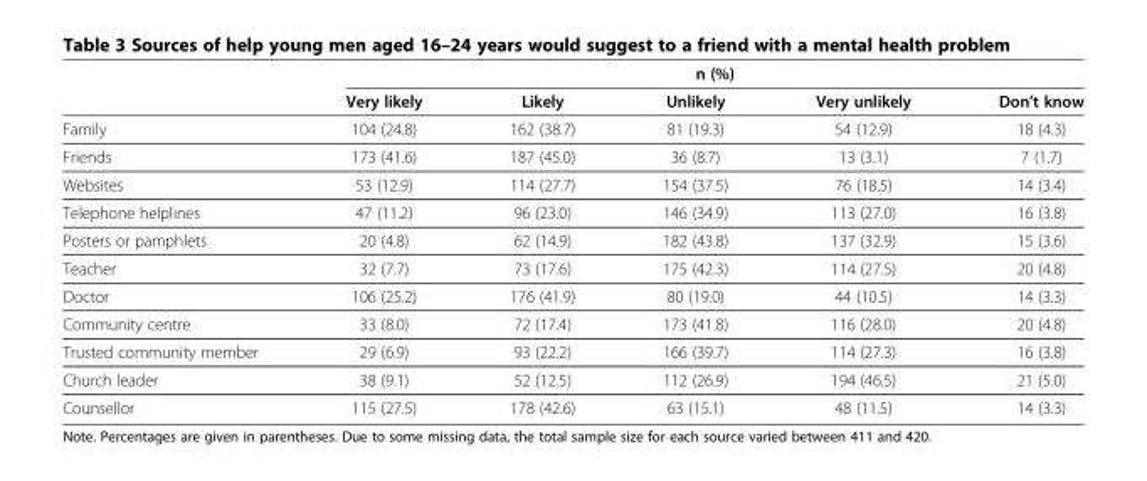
<table><thead><tr><td rowspan="2"></td><td colspan="5">n (%)</td></tr><tr><td>Very likely</td><td>Likely</td><td>Unlikely</td><td>Very unlikely</td><td>Don’t know</td></tr></thead><tbody><tr><td>Family</td><td>104 (24.8)</td><td>162 (38.7)</td><td>81 (19.3)</td><td>54 (12.9)</td><td>18 (4.3)</td></tr><tr><td>Friends</td><td>173 (41.6)</td><td>187 (45.0)</td><td>36 (8.7)</td><td>13 (3.1)</td><td>7 (1.7)</td></tr><tr><td>Websites</td><td>53 (12.9)</td><td>114 (27.7)</td><td>154 (37.5)</td><td>76 (18.5)</td><td>14 (3.4)</td></tr><tr><td>Telephone helplines</td><td>47 (11.2)</td><td>96 (23.0)</td><td>146 (34.9)</td><td>113 (27.0)</td><td>16 (3.8)</td></tr><tr><td>Posters or pamphlets</td><td>20 (4.8)</td><td>62 (14.9)</td><td>182 (43.8)</td><td>137 (32.9)</td><td>15 (3.6)</td></tr><tr><td>Teacher</td><td>32 (7.7)</td><td>73 (17.6)</td><td>175 (42.3)</td><td>114 (27.5)</td><td>20 (4.8)</td></tr><tr><td>Doctor</td><td>106 (25.2)</td><td>176 (41.9)</td><td>80 (19.0)</td><td>44 (10.5)</td><td>14 (3.3)</td></tr><tr><td>Community centre</td><td>33 (8.0)</td><td>72 (17.4)</td><td>173 (41.8)</td><td>116 (28.0)</td><td>20 (4.8)</td></tr><tr><td>Trusted community member</td><td>29 (6.9)</td><td>93 (22.2)</td><td>166 (39.7)</td><td>114 (27.3)</td><td>16 (3.8)</td></tr><tr><td>Church leader</td><td>38 (9.1)</td><td>52 (12.5)</td><td>112 (26.9)</td><td>194 (46.5)</td><td>21 (5.0)</td></tr><tr><td>Counsellor</td><td>115 (27.5)</td><td>178 (42.6)</td><td>63 (15.1)</td><td>48 (11.5)</td><td>14 (3.3)</td></tr></tbody></table>